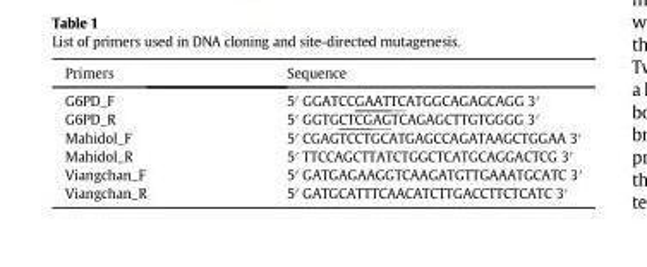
<table><thead><tr><td>Primers</td><td>Sequence</td></tr></thead><tbody><tr><td>G6PD_F</td><td>5′ GGATCCGAATTCATGGCAGAGCAGG 3′</td></tr><tr><td>G6PD_R</td><td>5′ GGTGCTCGAGTCAGAGCTTGTGGGG 3′</td></tr><tr><td>Mahidol_F</td><td>5′ CGAGTCCTGCATGAGCCAGATAAGCTGGAA 3′</td></tr><tr><td>Mahidol_R</td><td>5′ TTCCAGCTTATCTGGCTCATGCAGGACTCG 3′</td></tr><tr><td>Viangchan_F</td><td>5′ GATGAGAAGGTCAAGATGTTGAAATGCATC 3′</td></tr><tr><td>Viangchan_R</td><td>5′ GATGCATTTCAACATCTTGACCTTCTCATC 3′</td></tr></tbody></table>